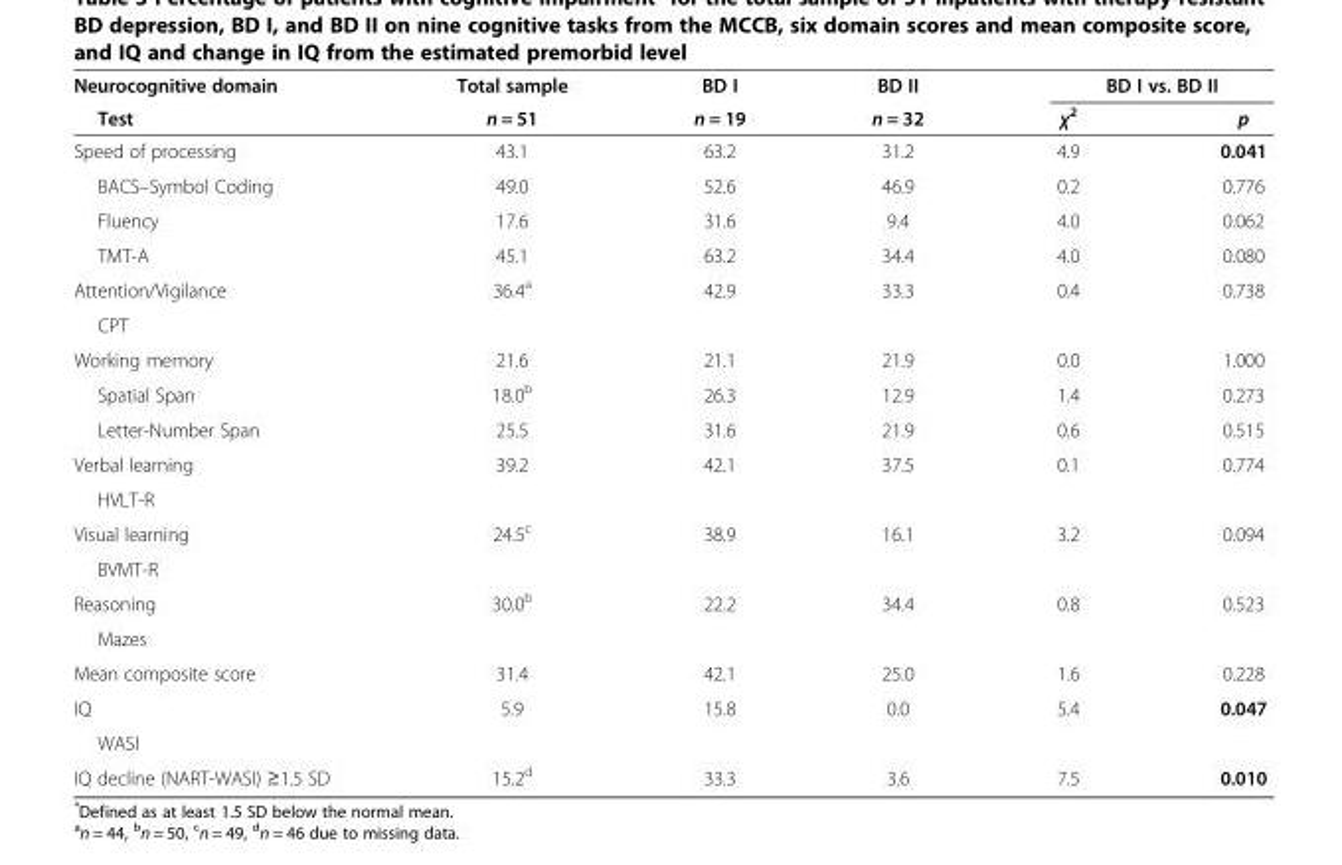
<table><thead><tr><td rowspan="2">Neurocognitive domain Test</td><td rowspan="2">Total sample n = 51</td><td rowspan="2">BD I n = 19</td><td rowspan="2">BD II n = 32</td><td colspan="2">BD I vs. BD II</td></tr><tr><td>χ<sup>2</sup></td><td>p</td></tr></thead><tbody><tr><td>Speed of processing</td><td>43.1</td><td>63.2</td><td>31.2</td><td>4.9</td><td>0.041</td></tr><tr><td>BACS–Symbol Coding</td><td>49.0</td><td>52.6</td><td>46.9</td><td>0.2</td><td>0.776</td></tr><tr><td>Fluency</td><td>17.6</td><td>31.6</td><td>9.4</td><td>4.0</td><td>0.062</td></tr><tr><td>TMT-A</td><td>45.1</td><td>63.2</td><td>34.4</td><td>4.0</td><td>0.080</td></tr><tr><td>Attention/Vigilance</td><td>36.4<sup>a</sup></td><td>42.9</td><td>33.3</td><td>0.4</td><td>0.738</td></tr><tr><td colspan="6">CPT</td></tr><tr><td>Working memory</td><td>21.6</td><td>21.1</td><td>21.9</td><td>0.0</td><td>1.000</td></tr><tr><td>Spatial Span</td><td>18.0<sup>b</sup></td><td>26.3</td><td>12.9</td><td>1.4</td><td>0.273</td></tr><tr><td>Letter-Number Span</td><td>25.5</td><td>31.6</td><td>21.9</td><td>0.6</td><td>0.515</td></tr><tr><td>Verbal learning</td><td>39.2</td><td>42.1</td><td>37.5</td><td>0.1</td><td>0.774</td></tr><tr><td colspan="6">HVLT-R</td></tr><tr><td>Visual learning</td><td>24.5<sup>c</sup></td><td>38.9</td><td>16.1</td><td>3.2</td><td>0.094</td></tr><tr><td colspan="6">BVMT-R</td></tr><tr><td>Reasoning</td><td>30.0<sup>b</sup></td><td>22.2</td><td>34.4</td><td>0.8</td><td>0.523</td></tr><tr><td colspan="6">Mazes</td></tr><tr><td>Mean composite score</td><td>31.4</td><td>42.1</td><td>25.0</td><td>1.6</td><td>0.228</td></tr><tr><td>IQ</td><td>5.9</td><td>15.8</td><td>0.0</td><td>5.4</td><td>0.047</td></tr><tr><td colspan="6">WASI</td></tr><tr><td>IQ decline (NART-WASI) ≥1.5 SD</td><td>15.2<sup>d</sup></td><td>33.3</td><td>3.6</td><td>7.5</td><td>0.010</td></tr></tbody></table>